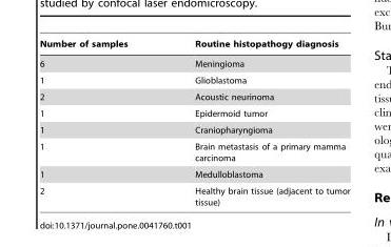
<table><thead><tr><td>Number of samples</td><td>Routine histopathogy diagnosis</td></tr></thead><tbody><tr><td>6</td><td>Meningioma</td></tr><tr><td>1</td><td>Glioblastoma</td></tr><tr><td>2</td><td>Acoustic neurinoma</td></tr><tr><td>1</td><td>Epidermoid tumor</td></tr><tr><td>1</td><td>Craniopharyngioma</td></tr><tr><td>1</td><td>Brain metastasis of a primary mamma carcinoma</td></tr><tr><td>1</td><td>Medulloblastoma</td></tr><tr><td>2</td><td>Healthy brain tissue (adjacent to tumor tissue)</td></tr></tbody></table>